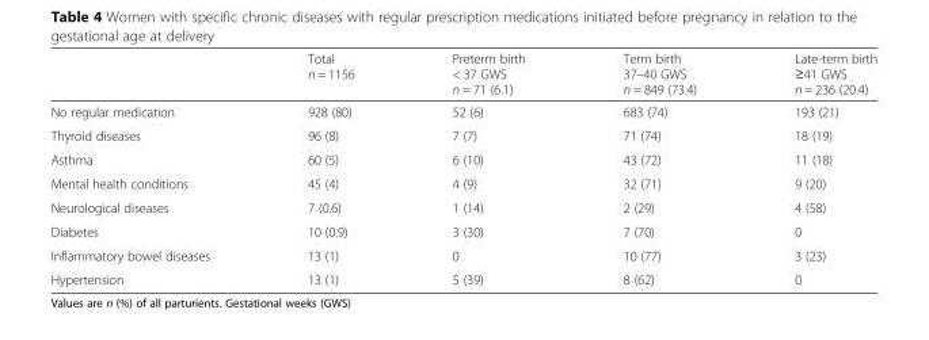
<table><thead><tr><td></td><td>Total n = 1156</td><td>Preterm birth &lt; 37 GWS n = 71 (6.1)</td><td>Term birth 37–40 GWS n = 849 (73.4)</td><td>Late-term birth ≥41 GWS n = 236 (20.4)</td></tr></thead><tbody><tr><td>No regular medication</td><td>928 (80)</td><td>52 (6)</td><td>683 (74)</td><td>193 (21)</td></tr><tr><td>Thyroid diseases</td><td>96 (8)</td><td>7 (7)</td><td>71 (74)</td><td>18 (19)</td></tr><tr><td>Asthma</td><td>60 (5)</td><td>6 (10)</td><td>43 (72)</td><td>11 (18)</td></tr><tr><td>Mental health conditions</td><td>45 (4)</td><td>4 (9)</td><td>32 (71)</td><td>9 (20)</td></tr><tr><td>Neurological diseases</td><td>7 (0.6)</td><td>1 (14)</td><td>2 (29)</td><td>4 (58)</td></tr><tr><td>Diabetes</td><td>10 (0.9)</td><td>3 (30)</td><td>7 (70)</td><td>0</td></tr><tr><td>Inflammatory bowel diseases</td><td>13 (1)</td><td>0</td><td>10 (77)</td><td>3 (23)</td></tr><tr><td>Hypertension</td><td>13 (1)</td><td>5 (39)</td><td>8 (62)</td><td>0</td></tr></tbody></table>